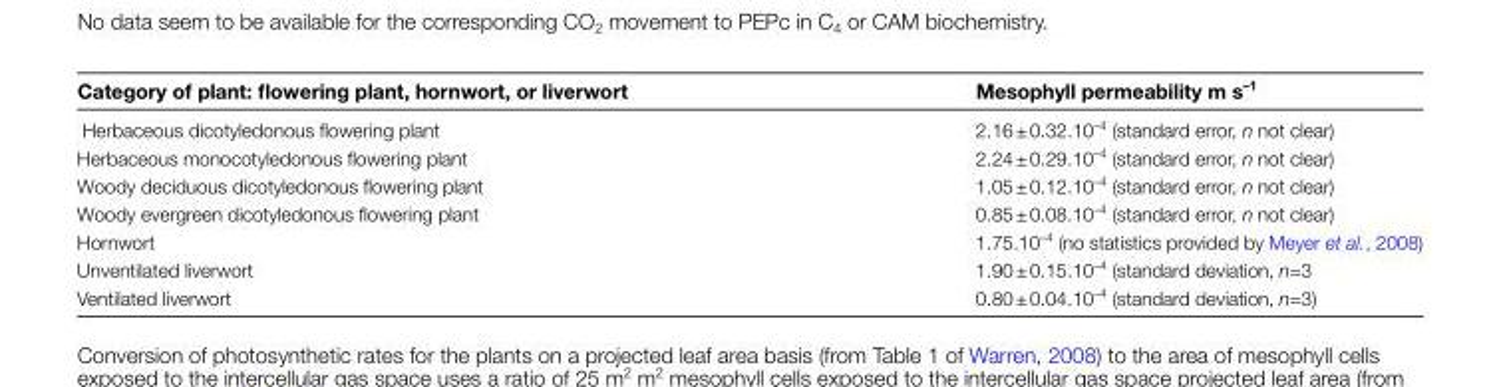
<table><thead><tr><td>Category of plant: flowering plant, hornwort, or liverwort</td><td>Mesophyll permeability m s<sup>–1</sup></td></tr></thead><tbody><tr><td>Herbaceous dicotyledonous flowering plant</td><td>2.16 ± 0.32.10<sup>–4</sup> (standard error, n not clear)</td></tr><tr><td>Herbaceous monocotyledonous flowering plant</td><td>2.24 ± 0.29.10<sup>–4</sup> (standard error, n not clear)</td></tr><tr><td>Woody deciduous dicotyledonous flowering plant</td><td>1.05 ± 0.12.10<sup>–4</sup> (standard error, n not clear)</td></tr><tr><td>Woody evergreen dicotyledonous flowering plant</td><td>0.85 ± 0.08.10<sup>–4</sup> (standard error, n not clear)</td></tr><tr><td>Hornwort</td><td>1.75.10<sup>–4</sup> (no statistics provided by Meyer et al., 2008)</td></tr><tr><td>Unventilated liverwort</td><td>1.90 ± 0.15.10<sup>–4</sup> (standard deviation, n=3</td></tr><tr><td>Ventilated liverwort</td><td>0.80 ± 0.04.10<sup>–4</sup> (standard deviation, n=3)</td></tr></tbody></table>